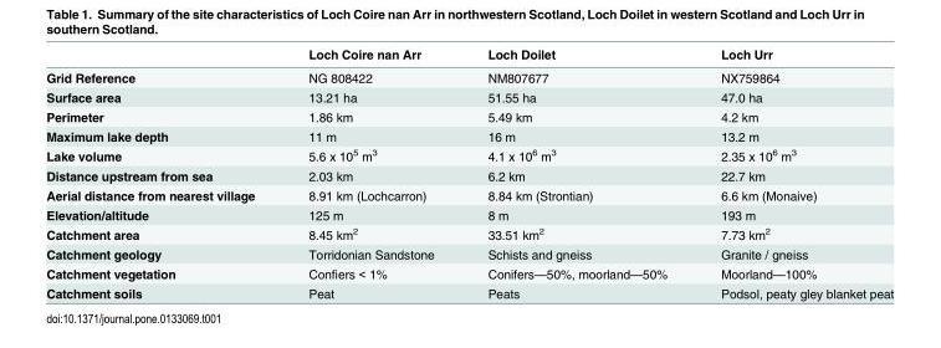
<table><thead><tr><td></td><td>Loch Coire nan Arr</td><td>Loch Doilet</td><td>Loch Urr</td></tr></thead><tbody><tr><td>Grid Reference</td><td>NG 808422</td><td>NM807677</td><td>NX759864</td></tr><tr><td>Surface area</td><td>13.21 ha</td><td>51.55 ha</td><td>47.0 ha</td></tr><tr><td>Perimeter</td><td>1.86 km</td><td>5.49 km</td><td>4.2 km</td></tr><tr><td>Maximum lake depth</td><td>11 m</td><td>16 m</td><td>13.2 m</td></tr><tr><td>Lake volume</td><td>5.6 x 10<sup>5</sup> m<sup>3</sup></td><td>4.1 x 10<sup>6</sup> m<sup>3</sup></td><td>2.35 x 10<sup>6</sup> m<sup>3</sup></td></tr><tr><td>Distance upstream from sea</td><td>2.03 km</td><td>6.2 km</td><td>22.7 km</td></tr><tr><td>Aerial distance from nearest village</td><td>8.91 km (Lochcarron)</td><td>8.84 km (Strontian)</td><td>6.6 km (Monaive)</td></tr><tr><td>Elevation/altitude</td><td>125 m</td><td>8 m</td><td>193 m</td></tr><tr><td>Catchment area</td><td>8.45 km<sup>2</sup></td><td>33.51 km<sup>2</sup></td><td>7.73 km<sup>2</sup></td></tr><tr><td>Catchment geology</td><td>Torridonian Sandstone</td><td>Schists and gneiss</td><td>Granite / gneiss</td></tr><tr><td>Catchment vegetation</td><td>Confiers &lt; 1%</td><td>Conifers—50%, moorland—50%</td><td>Moorland—100%</td></tr><tr><td>Catchment soils</td><td>Peat</td><td>Peats</td><td>Podsol, peaty gley blanket peat</td></tr></tbody></table>